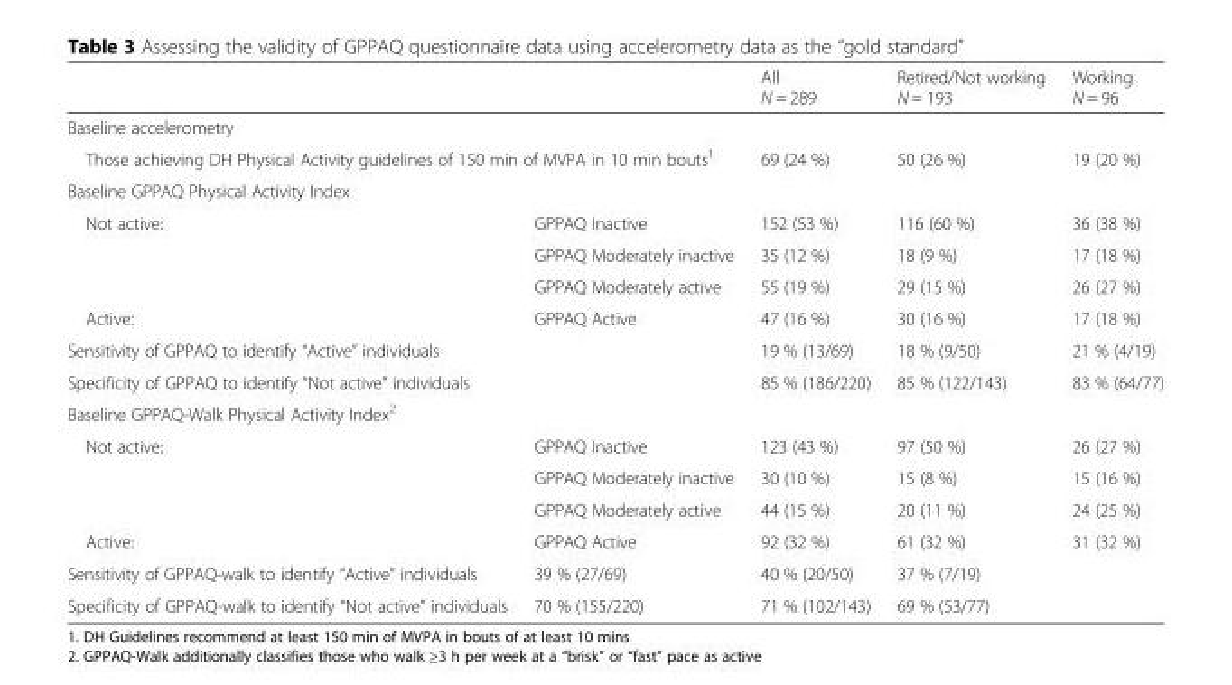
<table><thead><tr><td></td><td></td><td>All N = 289</td><td>Retired/Not working N = 193</td><td>Working N = 96</td></tr></thead><tbody><tr><td colspan="5">Baseline accelerometry</td></tr><tr><td colspan="2">Those achieving DH Physical Activity guidelines of 150 min of MVPA in 10 min bouts<sup>1</sup></td><td>69 (24 %)</td><td>50 (26 %)</td><td>19 (20 %)</td></tr><tr><td colspan="5">Baseline GPPAQ Physical Activity Index</td></tr><tr><td rowspan="3">Not active:</td><td>GPPAQ Inactive</td><td>152 (53 %)</td><td>116 (60 %)</td><td>36 (38 %)</td></tr><tr><td>GPPAQ Moderately inactive</td><td>35 (12 %)</td><td>18 (9 %)</td><td>17 (18 %)</td></tr><tr><td>GPPAQ Moderately active</td><td>55 (19 %)</td><td>29 (15 %)</td><td>26 (27 %)</td></tr><tr><td>Active:</td><td>GPPAQ Active</td><td>47 (16 %)</td><td>30 (16 %)</td><td>17 (18 %)</td></tr><tr><td>Sensitivity of GPPAQ to identify “Active” individuals</td><td></td><td>19 % (13/69)</td><td>18 % (9/50)</td><td>21 % (4/19)</td></tr><tr><td>Specificity of GPPAQ to identify “Not active” individuals</td><td></td><td>85 % (186/220)</td><td>85 % (122/143)</td><td>83 % (64/77)</td></tr><tr><td colspan="5">Baseline GPPAQ-Walk Physical Activity Index<sup>2</sup></td></tr><tr><td rowspan="3">Not active:</td><td>GPPAQ Inactive</td><td>123 (43 %)</td><td>97 (50 %)</td><td>26 (27 %)</td></tr><tr><td>GPPAQ Moderately inactive</td><td>30 (10 %)</td><td>15 (8 %)</td><td>15 (16 %)</td></tr><tr><td>GPPAQ Moderately active</td><td>44 (15 %)</td><td>20 (11 %)</td><td>24 (25 %)</td></tr><tr><td>Active:</td><td>GPPAQ Active</td><td>92 (32 %)</td><td>61 (32 %)</td><td>31 (32 %)</td></tr><tr><td>Sensitivity of GPPAQ-walk to identify “Active” individuals</td><td>39 % (27/69)</td><td>40 % (20/50)</td><td>37 % (7/19)</td><td></td></tr><tr><td>Specificity of GPPAQ-walk to identify “Not active” individuals</td><td>70 % (155/220)</td><td>71 % (102/143)</td><td>69 % (53/77)</td><td></td></tr></tbody></table>